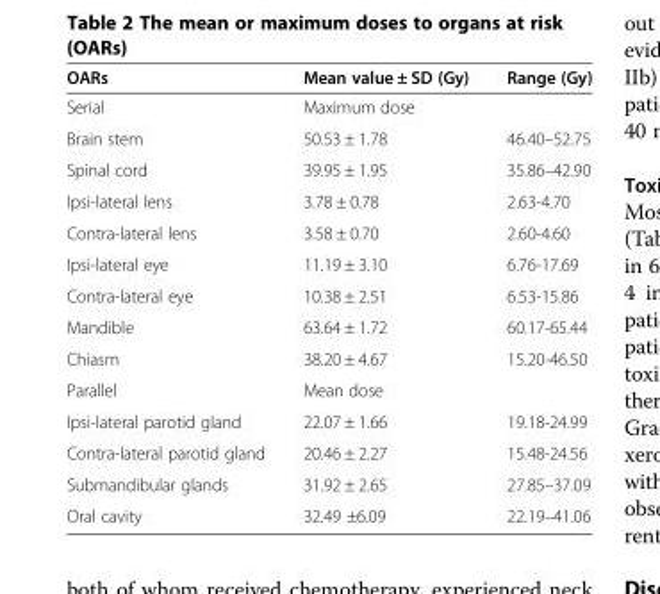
<table><thead><tr><td>OARs</td><td>Mean value ± SD (Gy)</td><td>Range (Gy)</td></tr></thead><tbody><tr><td>Serial</td><td>Maximum dose</td><td></td></tr><tr><td>Brain stem</td><td>50.53 ± 1.78</td><td>46.40–52.75</td></tr><tr><td>Spinal cord</td><td>39.95 ± 1.95</td><td>35.86–42.90</td></tr><tr><td>Ipsi-lateral lens</td><td>3.78 ± 0.78</td><td>2.63-4.70</td></tr><tr><td>Contra-lateral lens</td><td>3.58 ± 0.70</td><td>2.60-4.60</td></tr><tr><td>Ipsi-lateral eye</td><td>11.19 ± 3.10</td><td>6.76-17.69</td></tr><tr><td>Contra-lateral eye</td><td>10.38 ± 2.51</td><td>6.53-15.86</td></tr><tr><td>Mandible</td><td>63.64 ± 1.72</td><td>60.17-65.44</td></tr><tr><td>Chiasm</td><td>38.20 ± 4.67</td><td>15.20-46.50</td></tr><tr><td>Parallel</td><td>Mean dose</td><td></td></tr><tr><td>Ipsi-lateral parotid gland</td><td>22.07 ± 1.66</td><td>19.18-24.99</td></tr><tr><td>Contra-lateral parotid gland</td><td>20.46 ± 2.27</td><td>15.48-24.56</td></tr><tr><td>Submandibular glands</td><td>31.92 ± 2.65</td><td>27.85–37.09</td></tr><tr><td>Oral cavity</td><td>32.49 ±6.09</td><td>22.19–41.06</td></tr></tbody></table>